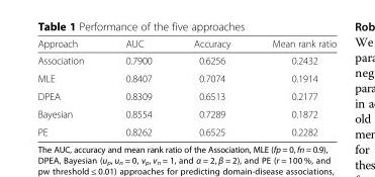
<table><thead><tr><td>Approach</td><td>AUC</td><td>Accuracy</td><td>Mean rank ratio</td></tr></thead><tbody><tr><td>Association</td><td>0.7900</td><td>0.6256</td><td>0.2432</td></tr><tr><td>MLE</td><td>0.8407</td><td>0.7074</td><td>0.1914</td></tr><tr><td>DPEA</td><td>0.8309</td><td>0.6513</td><td>0.2177</td></tr><tr><td>Bayesian</td><td>0.8554</td><td>0.7289</td><td>0.1872</td></tr><tr><td>PE</td><td>0.8262</td><td>0.6525</td><td>0.2282</td></tr></tbody></table>